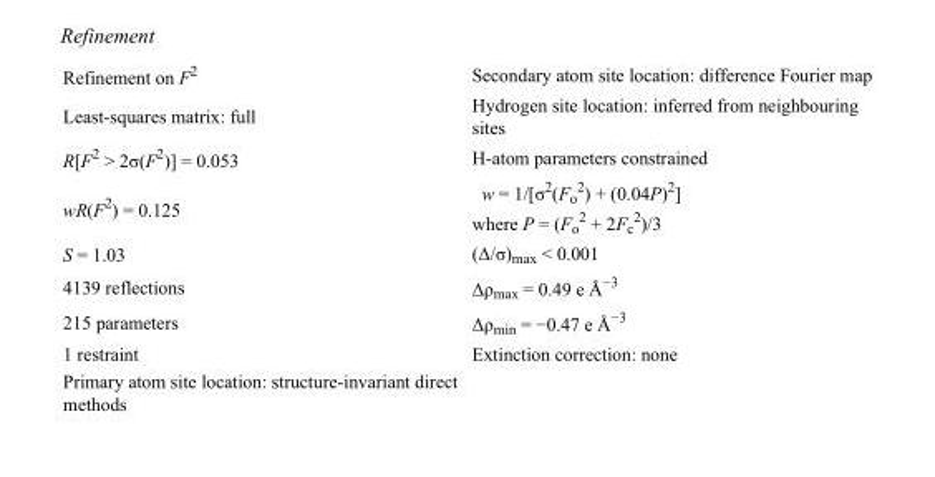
<table><tbody><tr><td>Refinement on F<sup>2</sup></td><td>Secondary atom site location: difference Fourier map</td></tr><tr><td>Least-squares matrix: full</td><td>Hydrogen site location: inferred from neighbouring sites</td></tr><tr><td>R[F<sup>2</sup> &gt; 2σ(F<sup>2</sup>)] = 0.053</td><td>H-atom parameters constrained</td></tr><tr><td>wR(F<sup>2</sup>) = 0.125</td><td>w = 1/[σ<sup>2</sup>(F<sub>o</sub> <sup>2</sup>) + (0.04P)<sup>2</sup>] where P = (F<sub>o</sub> <sup>2</sup> + 2F<sub>c</sub> <sup>2</sup>)/3</td></tr><tr><td>S = 1.03</td><td>(Δ/σ)<sub>max</sub> &lt; 0.001</td></tr><tr><td>4139 reflections</td><td>Δρ<sub>max</sub> = 0.49 e Å<sup>−3</sup></td></tr><tr><td>215 parameters</td><td>Δρ<sub>min</sub> = −0.47 e Å<sup>−3</sup></td></tr><tr><td>1 restraint</td><td>Extinction correction: none</td></tr><tr><td>Primary atom site location: structure-invariant direct methods</td><td></td></tr></tbody></table>